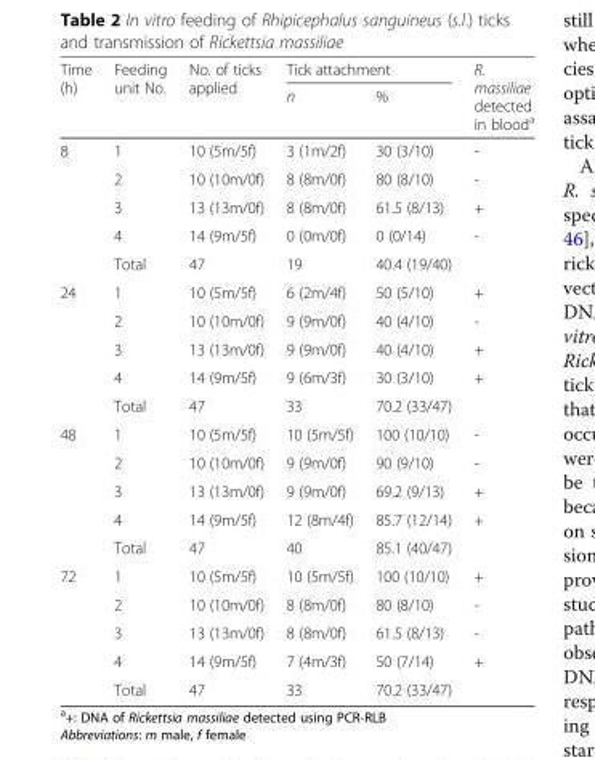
<table><thead><tr><td rowspan="2">Time (h)</td><td rowspan="2">Feeding unit No.</td><td rowspan="2">No. of ticks applied</td><td colspan="2">Tick attachment</td><td rowspan="2">R. massiliae detected in blood<sup>a</sup></td></tr><tr><td>n</td><td>%</td></tr></thead><tbody><tr><td rowspan="5">8</td><td>1</td><td>10 (5m/5f)</td><td>3 (1m/2f)</td><td>30 (3/10)</td><td>-</td></tr><tr><td>2</td><td>10 (10m/0f)</td><td>8 (8m/0f)</td><td>80 (8/10)</td><td>-</td></tr><tr><td>3</td><td>13 (13m/0f)</td><td>8 (8m/0f)</td><td>61.5 (8/13)</td><td>+</td></tr><tr><td>4</td><td>14 (9m/5f)</td><td>0 (0m/0f)</td><td>0 (0/14)</td><td>-</td></tr><tr><td>Total</td><td>47</td><td>19</td><td>40.4 (19/40)</td><td></td></tr><tr><td rowspan="5">24</td><td>1</td><td>10 (5m/5f)</td><td>6 (2m/4f)</td><td>50 (5/10)</td><td>+</td></tr><tr><td>2</td><td>10 (10m/0f)</td><td>9 (9m/0f)</td><td>40 (4/10)</td><td>-</td></tr><tr><td>3</td><td>13 (13m/0f)</td><td>9 (9m/0f)</td><td>40 (4/10)</td><td>+</td></tr><tr><td>4</td><td>14 (9m/5f)</td><td>9 (6m/3f)</td><td>30 (3/10)</td><td>+</td></tr><tr><td>Total</td><td>47</td><td>33</td><td>70.2 (33/47)</td><td></td></tr><tr><td rowspan="5">48</td><td>1</td><td>10 (5m/5f)</td><td>10 (5m/5f)</td><td>100 (10/10)</td><td>-</td></tr><tr><td>2</td><td>10 (10m/0f)</td><td>9 (9m/0f)</td><td>90 (9/10)</td><td>-</td></tr><tr><td>3</td><td>13 (13m/0f)</td><td>9 (9m/0f)</td><td>69.2 (9/13)</td><td>+</td></tr><tr><td>4</td><td>14 (9m/5f)</td><td>12 (8m/4f)</td><td>85.7 (12/14)</td><td>+</td></tr><tr><td>Total</td><td>47</td><td>40</td><td>85.1 (40/47)</td><td></td></tr><tr><td rowspan="5">72</td><td>1</td><td>10 (5m/5f)</td><td>10 (5m/5f)</td><td>100 (10/10)</td><td>+</td></tr><tr><td>2</td><td>10 (10m/0f)</td><td>8 (8m/0f)</td><td>80 (8/10)</td><td>-</td></tr><tr><td>3</td><td>13 (13m/0f)</td><td>8 (8m/0f)</td><td>61.5 (8/13)</td><td>-</td></tr><tr><td>4</td><td>14 (9m/5f)</td><td>7 (4m/3f)</td><td>50 (7/14)</td><td>+</td></tr><tr><td>Total</td><td>47</td><td>33</td><td>70.2 (33/47)</td><td></td></tr></tbody></table>